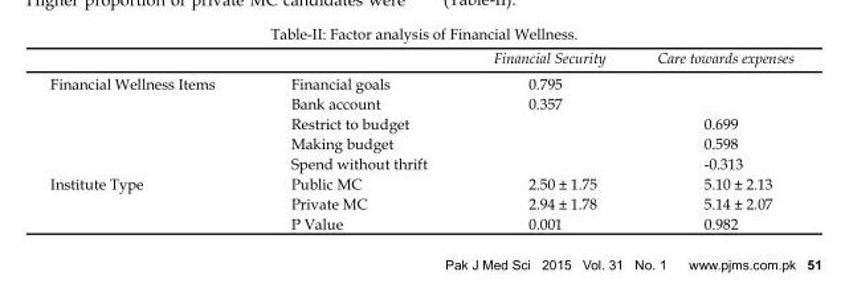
<table><thead><tr><td></td><td></td><td>Financial Security</td><td>Care towards expenses</td></tr></thead><tbody><tr><td rowspan="5">Financial Wellness Items</td><td>Financial goals</td><td>0.795</td><td></td></tr><tr><td>Bank account</td><td>0.357</td><td></td></tr><tr><td>Restrict to budget</td><td></td><td>0.699</td></tr><tr><td>Making budget</td><td></td><td>0.598</td></tr><tr><td>Spend without thrift</td><td></td><td>-0.313</td></tr><tr><td rowspan="3">Institute Type</td><td>Public MC</td><td>2.50 ± 1.75</td><td>5.10 ± 2.13</td></tr><tr><td>Private MC</td><td>2.94 ± 1.78</td><td>5.14 ± 2.07</td></tr><tr><td>P Value</td><td>0.001</td><td>0.982</td></tr></tbody></table>